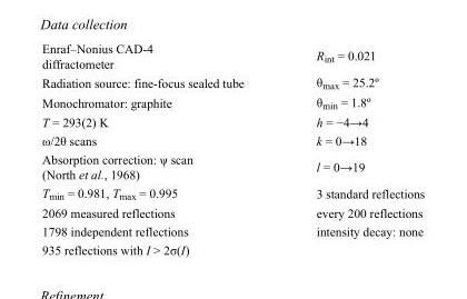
<table><tbody><tr><td>Enraf–Nonius CAD-4 diffractometer</td><td>R<sub>int</sub> = 0.021</td></tr><tr><td>Radiation source: fine-focus sealed tube</td><td>θ<sub>max</sub> = 25.2º</td></tr><tr><td>Monochromator: graphite</td><td>θ<sub>min</sub> = 1.8º</td></tr><tr><td>T = 293(2) K</td><td>h = −4→4</td></tr><tr><td>ω/2θ scans</td><td>k = 0→18</td></tr><tr><td>Absorption correction: ψ scan (North et al., 1968)</td><td>l = 0→19</td></tr><tr><td>T<sub>min</sub> = 0.981, T<sub>max</sub> = 0.995</td><td>3 standard reflections</td></tr><tr><td>2069 measured reflections</td><td>every 200 reflections</td></tr><tr><td>1798 independent reflections</td><td>intensity decay: none</td></tr><tr><td>935 reflections with I &gt; 2σ(I)</td><td></td></tr></tbody></table>